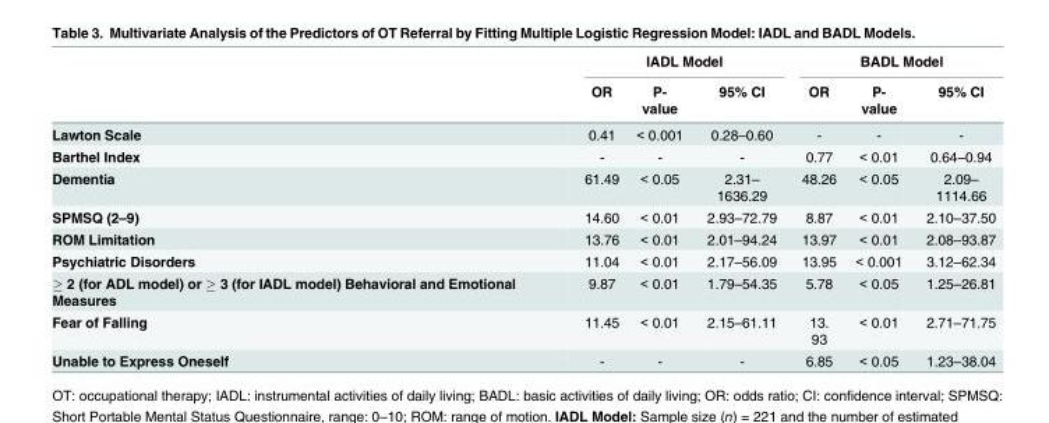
<table><thead><tr><td rowspan="2"></td><td colspan="3">IADL Model</td><td colspan="3">BADL Model</td></tr><tr><td>OR</td><td>P- value</td><td>95% CI</td><td>OR</td><td>P- value</td><td>95% CI</td></tr></thead><tbody><tr><td>Lawton Scale</td><td>0.41</td><td>&lt; 0.001</td><td>0.28–0.60</td><td>-</td><td>-</td><td>-</td></tr><tr><td>Barthel Index</td><td>-</td><td>-</td><td>-</td><td>0.77</td><td>&lt; 0.01</td><td>0.64–0.94</td></tr><tr><td>Dementia</td><td>61.49</td><td>&lt; 0.05</td><td>2.31– 1636.29</td><td>48.26</td><td>&lt; 0.05</td><td>2.09– 1114.66</td></tr><tr><td>SPMSQ (2–9)</td><td>14.60</td><td>&lt; 0.01</td><td>2.93–72.79</td><td>8.87</td><td>&lt; 0.01</td><td>2.10–37.50</td></tr><tr><td>ROM Limitation</td><td>13.76</td><td>&lt; 0.01</td><td>2.01–94.24</td><td>13.97</td><td>&lt; 0.01</td><td>2.08–93.87</td></tr><tr><td>Psychiatric Disorders</td><td>11.04</td><td>&lt; 0.01</td><td>2.17–56.09</td><td>13.95</td><td>&lt; 0.001</td><td>3.12–62.34</td></tr><tr><td>≥ 2 (for ADL model) or ≥ 3 (for IADL model) Behavioral and Emotional Measures</td><td>9.87</td><td>&lt; 0.01</td><td>1.79–54.35</td><td>5.78</td><td>&lt; 0.05</td><td>1.25–26.81</td></tr><tr><td>Fear of Falling</td><td>11.45</td><td>&lt; 0.01</td><td>2.15–61.11</td><td>13. 93</td><td>&lt; 0.01</td><td>2.71–71.75</td></tr><tr><td>Unable to Express Oneself</td><td>-</td><td>-</td><td>-</td><td>6.85</td><td>&lt; 0.05</td><td>1.23–38.04</td></tr></tbody></table>